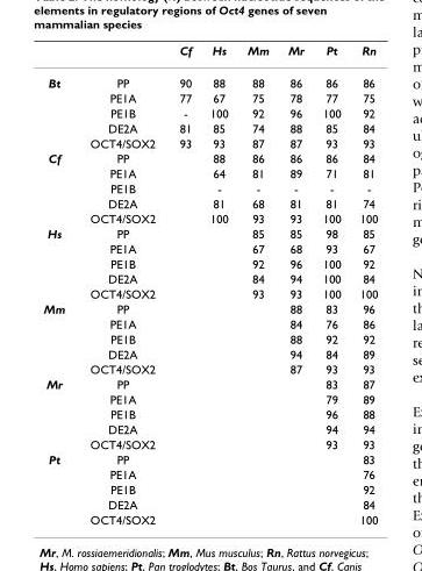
<table><thead><tr><td></td><td></td><td>Cf</td><td>Hs</td><td>Mm</td><td>Mr</td><td>Pt</td><td>Rn</td></tr></thead><tbody><tr><td rowspan="5">Bt</td><td>PP</td><td>90</td><td>88</td><td>88</td><td>86</td><td>86</td><td>86</td></tr><tr><td>PE1A</td><td>77</td><td>67</td><td>75</td><td>78</td><td>77</td><td>75</td></tr><tr><td>PE1B</td><td>-</td><td>100</td><td>92</td><td>96</td><td>100</td><td>92</td></tr><tr><td>DE2A</td><td>81</td><td>85</td><td>74</td><td>88</td><td>85</td><td>84</td></tr><tr><td>OCT4/SOX2</td><td>93</td><td>93</td><td>87</td><td>87</td><td>93</td><td>93</td></tr><tr><td rowspan="5">Cf</td><td>PP</td><td></td><td>88</td><td>86</td><td>86</td><td>86</td><td>84</td></tr><tr><td>PE1A</td><td></td><td>64</td><td>81</td><td>89</td><td>71</td><td>81</td></tr><tr><td>PE1B</td><td></td><td>-</td><td>-</td><td>-</td><td>-</td><td>-</td></tr><tr><td>DE2A</td><td></td><td>81</td><td>68</td><td>81</td><td>81</td><td>74</td></tr><tr><td>OCT4/SOX2</td><td></td><td>100</td><td>93</td><td>93</td><td>100</td><td>100</td></tr><tr><td rowspan="5">Hs</td><td>PP</td><td></td><td></td><td>85</td><td>85</td><td>98</td><td>85</td></tr><tr><td>PE1A</td><td></td><td></td><td>67</td><td>68</td><td>93</td><td>67</td></tr><tr><td>PE1B</td><td></td><td></td><td>92</td><td>96</td><td>100</td><td>92</td></tr><tr><td>DE2A</td><td></td><td></td><td>84</td><td>94</td><td>100</td><td>84</td></tr><tr><td>OCT4/SOX2</td><td></td><td></td><td>93</td><td>93</td><td>100</td><td>100</td></tr><tr><td rowspan="5">Mm</td><td>PP</td><td></td><td></td><td></td><td>88</td><td>83</td><td>96</td></tr><tr><td>PE1A</td><td></td><td></td><td></td><td>84</td><td>76</td><td>86</td></tr><tr><td>PE1B</td><td></td><td></td><td></td><td>88</td><td>92</td><td>92</td></tr><tr><td>DE2A</td><td></td><td></td><td></td><td>94</td><td>84</td><td>89</td></tr><tr><td>OCT4/SOX2</td><td></td><td></td><td></td><td>87</td><td>93</td><td>93</td></tr><tr><td rowspan="5">Mr</td><td>PP</td><td></td><td></td><td></td><td></td><td>83</td><td>87</td></tr><tr><td>PE1A</td><td></td><td></td><td></td><td></td><td>79</td><td>89</td></tr><tr><td>PE1B</td><td></td><td></td><td></td><td></td><td>96</td><td>88</td></tr><tr><td>DE2A</td><td></td><td></td><td></td><td></td><td>94</td><td>94</td></tr><tr><td>OCT4/SOX2</td><td></td><td></td><td></td><td></td><td>93</td><td>93</td></tr><tr><td rowspan="5">Pt</td><td>PP</td><td></td><td></td><td></td><td></td><td></td><td>83</td></tr><tr><td>PE1A</td><td></td><td></td><td></td><td></td><td></td><td>76</td></tr><tr><td>PE1B</td><td></td><td></td><td></td><td></td><td></td><td>92</td></tr><tr><td>DE2A</td><td></td><td></td><td></td><td></td><td></td><td>84</td></tr><tr><td>OCT4/SOX2</td><td></td><td></td><td></td><td></td><td></td><td>100</td></tr></tbody></table>